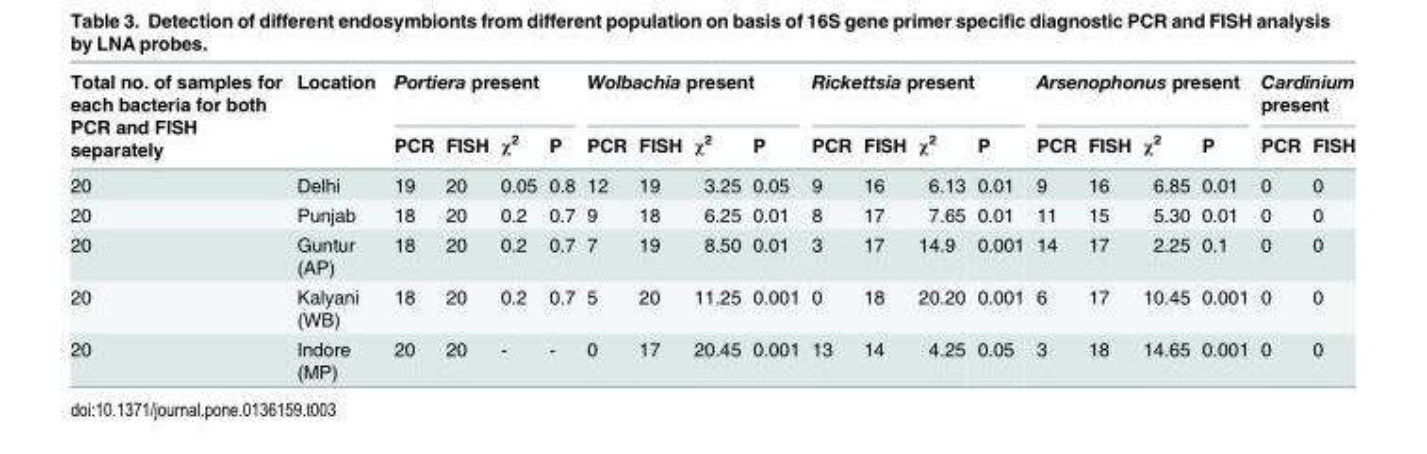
<table><thead><tr><td rowspan="2">Total no. of samples for each bacteria for both PCR and FISH separately</td><td rowspan="2">Location</td><td colspan="4">Portiera present</td><td colspan="4">Wolbachia present</td><td colspan="4">Rickettsia present</td><td colspan="4">Arsenophonus present</td><td colspan="2">Cardinium present</td></tr><tr><td>PCR</td><td>FISH</td><td>χ<sup>2</sup></td><td>P</td><td>PCR</td><td>FISH</td><td>χ<sup>2</sup></td><td>P</td><td>PCR</td><td>FISH</td><td>χ<sup>2</sup></td><td>P</td><td>PCR</td><td>FISH</td><td>χ<sup>2</sup></td><td>P</td><td>PCR</td><td>FISH</td></tr></thead><tbody><tr><td>20</td><td>Delhi</td><td>19</td><td>20</td><td>0.05</td><td>0.8</td><td>12</td><td>19</td><td>3.25</td><td>0.05</td><td>9</td><td>16</td><td>6.13</td><td>0.01</td><td>9</td><td>16</td><td>6.85</td><td>0.01</td><td>0</td><td>0</td></tr><tr><td>20</td><td>Punjab</td><td>18</td><td>20</td><td>0.2</td><td>0.7</td><td>9</td><td>18</td><td>6.25</td><td>0.01</td><td>8</td><td>17</td><td>7.65</td><td>0.01</td><td>11</td><td>15</td><td>5.30</td><td>0.01</td><td>0</td><td>0</td></tr><tr><td>20</td><td>Guntur (AP)</td><td>18</td><td>20</td><td>0.2</td><td>0.7</td><td>7</td><td>19</td><td>8.50</td><td>0.01</td><td>3</td><td>17</td><td>14.9</td><td>0.001</td><td>14</td><td>17</td><td>2.25</td><td>0.1</td><td>0</td><td>0</td></tr><tr><td>20</td><td>Kalyani (WB)</td><td>18</td><td>20</td><td>0.2</td><td>0.7</td><td>5</td><td>20</td><td>11.25</td><td>0.001</td><td>0</td><td>18</td><td>20.20</td><td>0.001</td><td>6</td><td>17</td><td>10.45</td><td>0.001</td><td>0</td><td>0</td></tr><tr><td>20</td><td>Indore (MP)</td><td>20</td><td>20</td><td>-</td><td>-</td><td>0</td><td>17</td><td>20.45</td><td>0.001</td><td>13</td><td>14</td><td>4.25</td><td>0.05</td><td>3</td><td>18</td><td>14.65</td><td>0.001</td><td>0</td><td>0</td></tr></tbody></table>